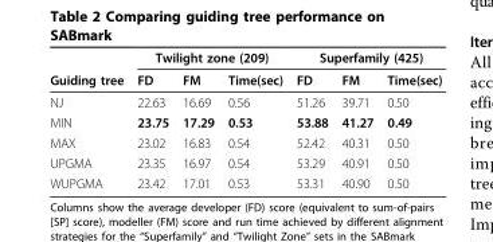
<table><thead><tr><td rowspan="2">Guiding tree</td><td colspan="3">Twilight zone (209)</td><td colspan="3">Superfamily (425)</td></tr><tr><td>FD</td><td>FM</td><td>Time(sec)</td><td>FD</td><td>FM</td><td>Time(sec)</td></tr></thead><tbody><tr><td>NJ</td><td>22.63</td><td>16.69</td><td>0.56</td><td>51.26</td><td>39.71</td><td>0.50</td></tr><tr><td>MIN</td><td>23.75</td><td>17.29</td><td>0.53</td><td>53.88</td><td>41.27</td><td>0.49</td></tr><tr><td>MAX</td><td>23.02</td><td>16.83</td><td>0.54</td><td>52.42</td><td>40.31</td><td>0.50</td></tr><tr><td>UPGMA</td><td>23.35</td><td>16.97</td><td>0.54</td><td>53.29</td><td>40.91</td><td>0.50</td></tr><tr><td>WUPGMA</td><td>23.42</td><td>17.01</td><td>0.53</td><td>53.31</td><td>40.90</td><td>0.50</td></tr></tbody></table>